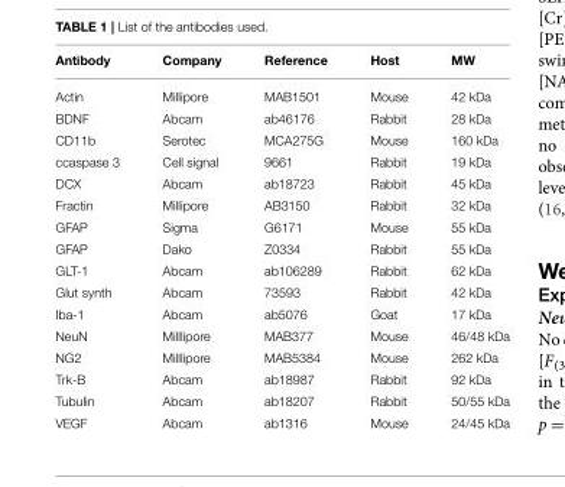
<table><thead><tr><td>Antibody</td><td>Company</td><td>Reference</td><td>Host</td><td>MW</td></tr></thead><tbody><tr><td>Actin</td><td>Millipore</td><td>MAB1501</td><td>Mouse</td><td>42 kDa</td></tr><tr><td>BDNF</td><td>Abcam</td><td>ab46176</td><td>Rabbit</td><td>28 kDa</td></tr><tr><td>CD11b</td><td>Serotec</td><td>MCA275G</td><td>Mouse</td><td>160 kDa</td></tr><tr><td>ccaspase 3</td><td>Cell signal</td><td>9661</td><td>Rabbit</td><td>19 kDa</td></tr><tr><td>DCX</td><td>Abcam</td><td>ab18723</td><td>Rabbit</td><td>45 kDa</td></tr><tr><td>Fractin</td><td>Millipore</td><td>AB3150</td><td>Rabbit</td><td>32 kDa</td></tr><tr><td>GFAP</td><td>Sigma</td><td>G6171</td><td>Mouse</td><td>55 kDa</td></tr><tr><td>GFAP</td><td>Dako</td><td>Z0334</td><td>Rabbit</td><td>55 kDa</td></tr><tr><td>GLT-1</td><td>Abcam</td><td>ab106289</td><td>Rabbit</td><td>62 kDa</td></tr><tr><td>Glut synth</td><td>Abcam</td><td>73593</td><td>Rabbit</td><td>42 kDa</td></tr><tr><td>Iba-1</td><td>Abcam</td><td>ab5076</td><td>Goat</td><td>17 kDa</td></tr><tr><td>NeuN</td><td>Milllipore</td><td>MAB377</td><td>Mouse</td><td>46/48 kDa</td></tr><tr><td>NG2</td><td>Milllipore</td><td>MAB5384</td><td>Mouse</td><td>262 kDa</td></tr><tr><td>Trk-B</td><td>Abcam</td><td>ab18987</td><td>Rabbit</td><td>92 kDa</td></tr><tr><td>Tubulin</td><td>Abcam</td><td>ab18207</td><td>Rabbit</td><td>50/55 kDa</td></tr><tr><td>VEGF</td><td>Abcam</td><td>ab1316</td><td>Mouse</td><td>24/45 kDa</td></tr></tbody></table>